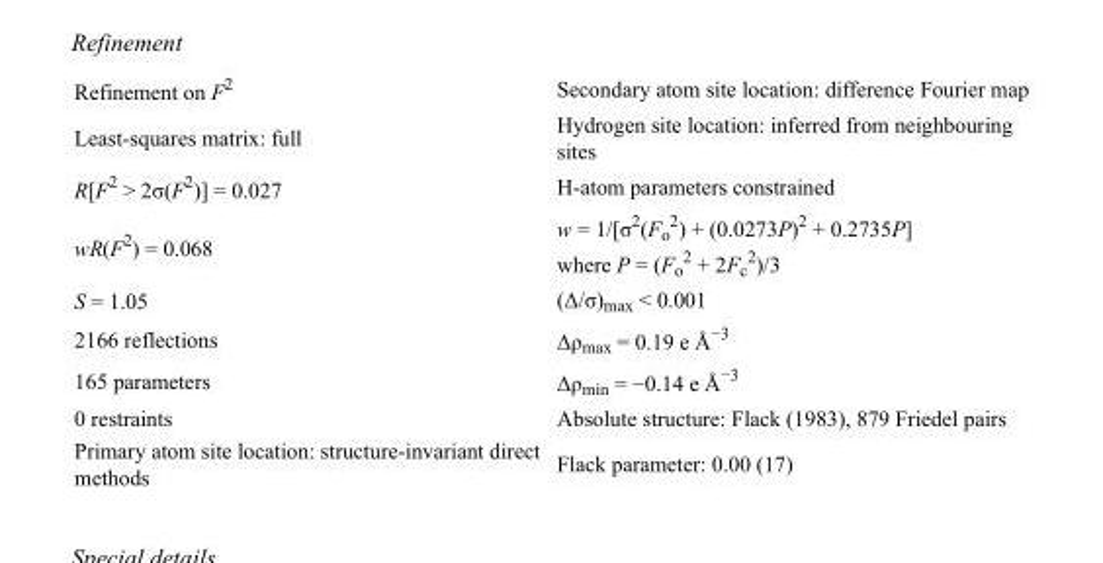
<table><tbody><tr><td>Refinement on F<sup>2</sup></td><td>Secondary atom site location: difference Fourier map</td></tr><tr><td>Least-squares matrix: full</td><td>Hydrogen site location: inferred from neighbouring sites</td></tr><tr><td>R[F<sup>2</sup> &gt; 2σ(F<sup>2</sup>)] = 0.027</td><td>H-atom parameters constrained</td></tr><tr><td>wR(F<sup>2</sup>) = 0.068</td><td>w = 1/[σ<sup>2</sup>(F<sub>o</sub> <sup>2</sup>) + (0.0273P)<sup>2</sup> + 0.2735P] where P = (F<sub>o</sub> <sup>2</sup> + 2F<sub>c</sub> <sup>2</sup>)/3</td></tr><tr><td>S = 1.05</td><td>(Δ/σ)<sub>max</sub> &lt; 0.001</td></tr><tr><td>2166 reflections</td><td>Δρ<sub>max</sub> = 0.19 e Å<sup>−3</sup></td></tr><tr><td>165 parameters</td><td>Δρ<sub>min</sub> = −0.14 e Å<sup>−3</sup></td></tr><tr><td>0 restraints</td><td>Absolute structure: Flack (1983), 879 Friedel pairs</td></tr><tr><td>Primary atom site location: structure-invariant direct methods</td><td>Flack parameter: 0.00 (17)</td></tr></tbody></table>